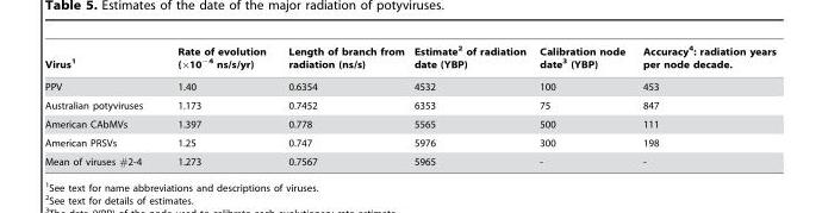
<table><thead><tr><td>Virus<sup>1</sup></td><td>Rate of evolution (×10<sup>−4</sup> ns/s/yr)</td><td>Length of branch from radiation (ns/s)</td><td>Estimate<sup>2</sup> of radiation date (YBP)</td><td>Calibration node date<sup>3</sup> (YBP)</td><td>Accuracy<sup>4</sup>: radiation years per node decade.</td></tr></thead><tbody><tr><td>PPV</td><td>1.40</td><td>0.6354</td><td>4532</td><td>100</td><td>453</td></tr><tr><td>Australian potyviruses</td><td>1.173</td><td>0.7452</td><td>6353</td><td>75</td><td>847</td></tr><tr><td>American CAbMVs</td><td>1.397</td><td>0.778</td><td>5565</td><td>500</td><td>111</td></tr><tr><td>American PRSVs</td><td>1.25</td><td>0.747</td><td>5976</td><td>300</td><td>198</td></tr><tr><td>Mean of viruses #2-4</td><td>1.273</td><td>0.7567</td><td>5965</td><td>-</td><td>-</td></tr></tbody></table>